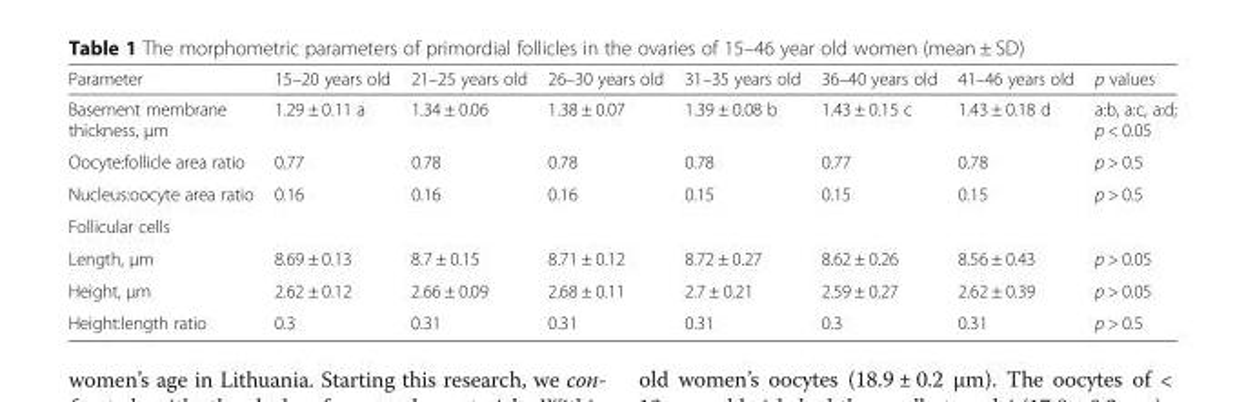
<table><thead><tr><td>Parameter</td><td>15–20 years old</td><td>21–25 years old</td><td>26–30 years old</td><td>31–35 years old</td><td>36–40 years old</td><td>41–46 years old</td><td>p values</td></tr></thead><tbody><tr><td>Basement membrane thickness, μm</td><td>1.29 ± 0.11 a</td><td>1.34 ± 0.06</td><td>1.38 ± 0.07</td><td>1.39 ± 0.08 b</td><td>1.43 ± 0.15 c</td><td>1.43 ± 0.18 d</td><td>a:b, a:c, a:d; p &lt; 0.05</td></tr><tr><td>Oocyte:follicle area ratio</td><td>0.77</td><td>0.78</td><td>0.78</td><td>0.78</td><td>0.77</td><td>0.78</td><td>p &gt; 0.5</td></tr><tr><td>Nucleus:oocyte area ratio</td><td>0.16</td><td>0.16</td><td>0.16</td><td>0.15</td><td>0.15</td><td>0.15</td><td>p &gt; 0.5</td></tr><tr><td colspan="8">Follicular cells</td></tr><tr><td>Length, μm</td><td>8.69 ± 0.13</td><td>8.7 ± 0.15</td><td>8.71 ± 0.12</td><td>8.72 ± 0.27</td><td>8.62 ± 0.26</td><td>8.56 ± 0.43</td><td>p &gt; 0.05</td></tr><tr><td>Height, μm</td><td>2.62 ± 0.12</td><td>2.66 ± 0.09</td><td>2.68 ± 0.11</td><td>2.7 ± 0.21</td><td>2.59 ± 0.27</td><td>2.62 ± 0.39</td><td>p &gt; 0.05</td></tr><tr><td>Height:length ratio</td><td>0.3</td><td>0.31</td><td>0.31</td><td>0.31</td><td>0.3</td><td>0.31</td><td>p &gt; 0.5</td></tr></tbody></table>